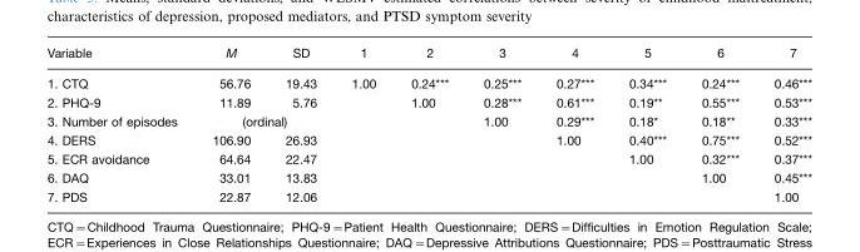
<table><thead><tr><td>Variable</td><td>M</td><td>SD</td><td>1</td><td>2</td><td>3</td><td>4</td><td>5</td><td>6</td><td>7</td></tr></thead><tbody><tr><td>1. CTQ</td><td>56.76</td><td>19.43</td><td>1.00</td><td>0.24***</td><td>0.25***</td><td>0.27***</td><td>0.34***</td><td>0.24***</td><td>0.46***</td></tr><tr><td>2. PHQ-9</td><td>11.89</td><td>5.76</td><td></td><td>1.00</td><td>0.28***</td><td>0.61***</td><td>0.19**</td><td>0.55***</td><td>0.53***</td></tr><tr><td>3. Number of episodes</td><td colspan="2">(ordinal)</td><td></td><td></td><td>1.00</td><td>0.29***</td><td>0.18*</td><td>0.18**</td><td>0.33***</td></tr><tr><td>4. DERS</td><td>106.90</td><td>26.93</td><td></td><td></td><td></td><td>1.00</td><td>0.40***</td><td>0.75***</td><td>0.52***</td></tr><tr><td>5. ECR avoidance</td><td>64.64</td><td>22.47</td><td></td><td></td><td></td><td></td><td>1.00</td><td>0.32***</td><td>0.37***</td></tr><tr><td>6. DAQ</td><td>33.01</td><td>13.83</td><td></td><td></td><td></td><td></td><td></td><td>1.00</td><td>0.45***</td></tr><tr><td>7. PDS</td><td>22.87</td><td>12.06</td><td></td><td></td><td></td><td></td><td></td><td></td><td>1.00</td></tr></tbody></table>